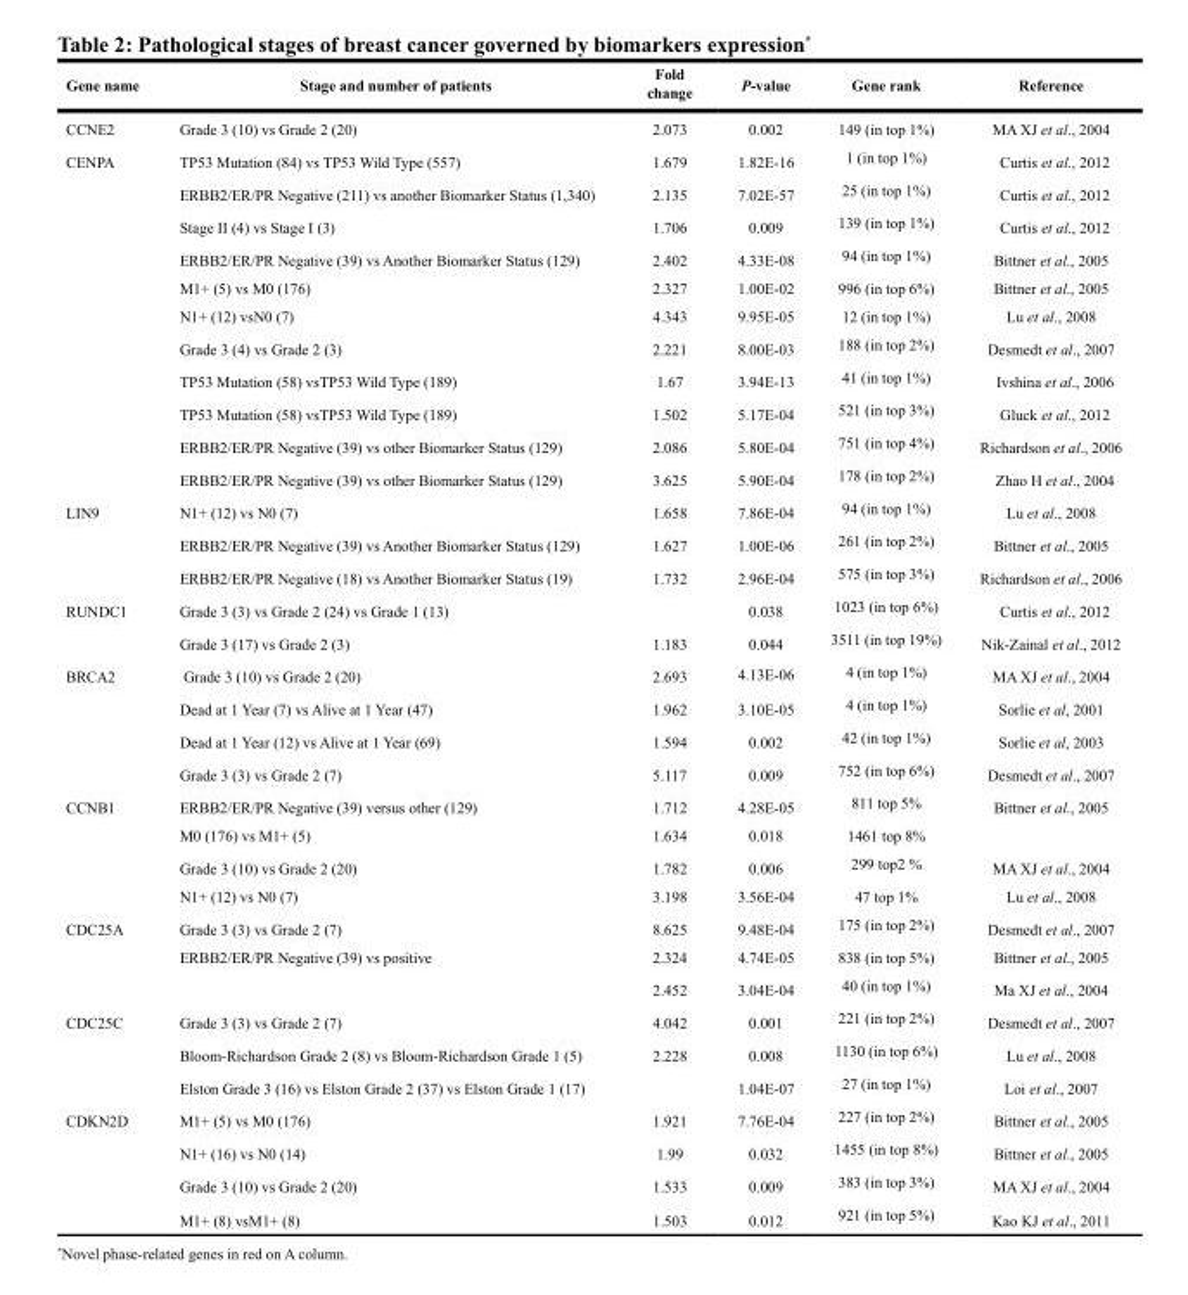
<table><thead><tr><td>Gene name</td><td>Stage and number of patients</td><td>Fold change</td><td>P-value</td><td>Gene rank</td><td>Reference</td></tr></thead><tbody><tr><td>CCNE2</td><td>Grade 3 (10) vs Grade 2 (20)</td><td>2.073</td><td>0.002</td><td>149 (in top 1%)</td><td>MA XJ et al., 2004</td></tr><tr><td rowspan="11">CENPA</td><td>TP53 Mutation (84) vs TP53 Wild Type (557)</td><td>1.679</td><td>1.82E-16</td><td>1 (in top 1%)</td><td>Curtis et al., 2012</td></tr><tr><td>ERBB2/ER/PR Negative (211) vs another Biomarker Status (1,340)</td><td>2.135</td><td>7.02E-57</td><td>25 (in top 1%)</td><td>Curtis et al., 2012</td></tr><tr><td>Stage II (4) vs Stage I (3)</td><td>1.706</td><td>0.009</td><td>139 (in top 1%)</td><td>Curtis et al., 2012</td></tr><tr><td>ERBB2/ER/PR Negative (39) vs Another Biomarker Status (129)</td><td>2.402</td><td>4.33E-08</td><td>94 (in top 1%)</td><td>Bittner et al., 2005</td></tr><tr><td>M1+ (5) vs M0 (176)</td><td>2.327</td><td>1.00E-02</td><td>996 (in top 6%)</td><td>Bittner et al., 2005</td></tr><tr><td>N1+ (12) vsN0 (7)</td><td>4.343</td><td>9.95E-05</td><td>12 (in top 1%)</td><td>Lu et al., 2008</td></tr><tr><td>Grade 3 (4) vs Grade 2 (3)</td><td>2.221</td><td>8.00E-03</td><td>188 (in top 2%)</td><td>Desmedt et al., 2007</td></tr><tr><td>TP53 Mutation (58) vsTP53 Wild Type (189)</td><td>1.67</td><td>3.94E-13</td><td>41 (in top 1%)</td><td>Ivshina et al., 2006</td></tr><tr><td>TP53 Mutation (58) vsTP53 Wild Type (189)</td><td>1.502</td><td>5.17E-04</td><td>521 (in top 3%)</td><td>Gluck et al., 2012</td></tr><tr><td>ERBB2/ER/PR Negative (39) vs other Biomarker Status (129)</td><td>2.086</td><td>5.80E-04</td><td>751 (in top 4%)</td><td>Richardson et al., 2006</td></tr><tr><td>ERBB2/ER/PR Negative (39) vs other Biomarker Status (129)</td><td>3.625</td><td>5.90E-04</td><td>178 (in top 2%)</td><td>Zhao H et al., 2004</td></tr><tr><td rowspan="3">LIN9</td><td>N1+ (12) vs N0 (7)</td><td>1.658</td><td>7.86E-04</td><td>94 (in top 1%)</td><td>Lu et al., 2008</td></tr><tr><td>ERBB2/ER/PR Negative (39) vs Another Biomarker Status (129)</td><td>1.627</td><td>1.00E-06</td><td>261 (in top 2%)</td><td>Bittner et al., 2005</td></tr><tr><td>ERBB2/ER/PR Negative (18) vs Another Biomarker Status (19)</td><td>1.732</td><td>2.96E-04</td><td>575 (in top 3%)</td><td>Richardson et al., 2006</td></tr><tr><td rowspan="2">RUNDC1</td><td>Grade 3 (3) vs Grade 2 (24) vs Grade 1 (13)</td><td></td><td>0.038</td><td>1023 (in top 6%)</td><td>Curtis et al., 2012</td></tr><tr><td>Grade 3 (17) vs Grade 2 (3)</td><td>1.183</td><td>0.044</td><td>3511 (in top 19%)</td><td>Nik-Zainal et al., 2012</td></tr><tr><td rowspan="4">BRCA2</td><td>Grade 3 (10) vs Grade 2 (20)</td><td>2.693</td><td>4.13E-06</td><td>4 (in top 1%)</td><td>MA XJ et al., 2004</td></tr><tr><td>Dead at 1 Year (7) vs Alive at 1 Year (47)</td><td>1.962</td><td>3.10E-05</td><td>4 (in top 1%)</td><td>Sorlie et al, 2001</td></tr><tr><td>Dead at 1 Year (12) vs Alive at 1 Year (69)</td><td>1.594</td><td>0.002</td><td>42 (in top 1%)</td><td>Sorlie et al, 2003</td></tr><tr><td>Grade 3 (3) vs Grade 2 (7)</td><td>5.117</td><td>0.009</td><td>752 (in top 6%)</td><td>Desmedt et al., 2007</td></tr><tr><td rowspan="4">CCNB1</td><td>ERBB2/ER/PR Negative (39) versus other (129)</td><td>1.712</td><td>4.28E-05</td><td>811 top 5%</td><td>Bittner et al., 2005</td></tr><tr><td>M0 (176) vs M1+ (5)</td><td>1.634</td><td>0.018</td><td>1461 top 8%</td><td></td></tr><tr><td>Grade 3 (10) vs Grade 2 (20)</td><td>1.782</td><td>0.006</td><td>299 top2 %</td><td>MA XJ et al., 2004</td></tr><tr><td>N1+ (12) vs N0 (7)</td><td>3.198</td><td>3.56E-04</td><td>47 top 1%</td><td>Lu et al., 2008</td></tr><tr><td rowspan="3">CDC25A</td><td>Grade 3 (3) vs Grade 2 (7)</td><td>8.625</td><td>9.48E-04</td><td>175 (in top 2%)</td><td>Desmedt et al., 2007</td></tr><tr><td>ERBB2/ER/PR Negative (39) vs positive</td><td>2.324</td><td>4.74E-05</td><td>838 (in top 5%)</td><td>Bittner et al., 2005</td></tr><tr><td></td><td>2.452</td><td>3.04E-04</td><td>40 (in top 1%)</td><td>Ma XJ et al., 2004</td></tr><tr><td rowspan="3">CDC25C</td><td>Grade 3 (3) vs Grade 2 (7)</td><td>4.042</td><td>0.001</td><td>221 (in top 2%)</td><td>Desmedt et al., 2007</td></tr><tr><td>Bloom-Richardson Grade 2 (8) vs Bloom-Richardson Grade 1 (5)</td><td>2.228</td><td>0.008</td><td>1130 (in top 6%)</td><td>Lu et al., 2008</td></tr><tr><td>Elston Grade 3 (16) vs Elston Grade 2 (37) vs Elston Grade 1 (17)</td><td></td><td>1.04E-07</td><td>27 (in top 1%)</td><td>Loi et al., 2007</td></tr><tr><td rowspan="4">CDKN2D</td><td>M1+ (5) vs M0 (176)</td><td>1.921</td><td>7.76E-04</td><td>227 (in top 2%)</td><td>Bittner et al., 2005</td></tr><tr><td>N1+ (16) vs N0 (14)</td><td>1.99</td><td>0.032</td><td>1455 (in top 8%)</td><td>Bittner et al., 2005</td></tr><tr><td>Grade 3 (10) vs Grade 2 (20)</td><td>1.533</td><td>0.009</td><td>383 (in top 3%)</td><td>MA XJ et al., 2004</td></tr><tr><td>M1+ (8) vsM1+ (8)</td><td>1.503</td><td>0.012</td><td>921 (in top 5%)</td><td>Kao KJ et al., 2011</td></tr></tbody></table>